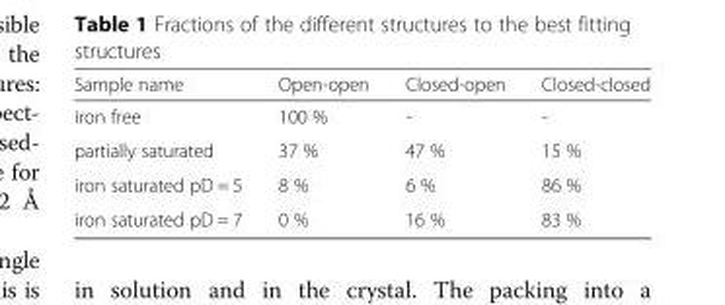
<table><thead><tr><td>Sample name</td><td>Open-open</td><td>Closed-open</td><td>Closed-closed</td></tr></thead><tbody><tr><td>iron free</td><td>100 %</td><td>-</td><td>-</td></tr><tr><td>partially saturated</td><td>37 %</td><td>47 %</td><td>15 %</td></tr><tr><td>iron saturated pD = 5</td><td>8 %</td><td>6 %</td><td>86 %</td></tr><tr><td>iron saturated pD = 7</td><td>0 %</td><td>16 %</td><td>83 %</td></tr></tbody></table>